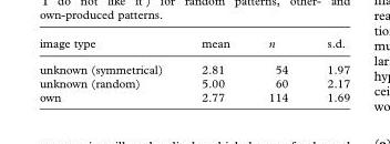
<table><thead><tr><td>image type</td><td>mean</td><td>n</td><td>s.d.</td></tr></thead><tbody><tr><td>unknown (symmetrical)</td><td>2.81</td><td>54</td><td>1.97</td></tr><tr><td>unknown (random)</td><td>5.00</td><td>60</td><td>2.17</td></tr><tr><td>own</td><td>2.77</td><td>114</td><td>1.69</td></tr></tbody></table>